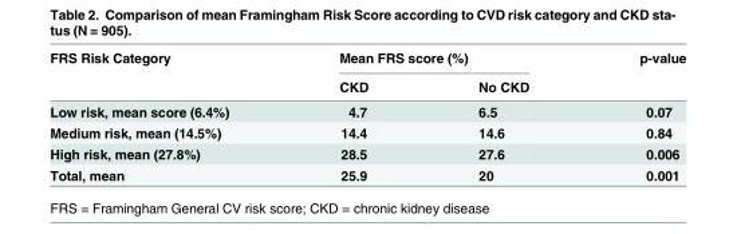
<table><thead><tr><td rowspan="2">FRS Risk Category</td><td colspan="2">Mean FRS score (%)</td><td rowspan="2">p-value</td></tr><tr><td>CKD</td><td>No CKD</td></tr></thead><tbody><tr><td>Low risk, mean score (6.4%)</td><td>4.7</td><td>6.5</td><td>0.07</td></tr><tr><td>Medium risk, mean (14.5%)</td><td>14.4</td><td>14.6</td><td>0.84</td></tr><tr><td>High risk, mean (27.8%)</td><td>28.5</td><td>27.6</td><td>0.006</td></tr><tr><td>Total, mean</td><td>25.9</td><td>20</td><td>0.001</td></tr></tbody></table>